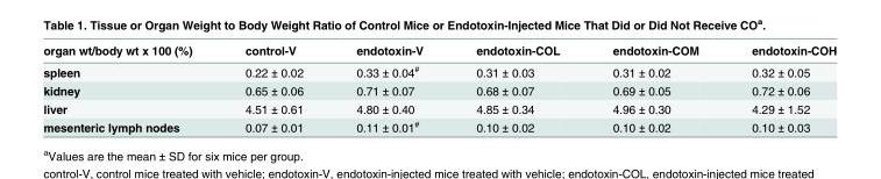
<table><thead><tr><td>organ wt/body wt x 100 (%)</td><td>control-V</td><td>endotoxin-V</td><td>endotoxin-COL</td><td>endotoxin-COM</td><td>endotoxin-COH</td></tr></thead><tbody><tr><td>spleen</td><td>0.22 ± 0.02</td><td>0.33 ± 0.04<sup>#</sup></td><td>0.31 ± 0.03</td><td>0.31 ± 0.02</td><td>0.32 ± 0.05</td></tr><tr><td>kidney</td><td>0.65 ± 0.06</td><td>0.71 ± 0.07</td><td>0.68 ± 0.07</td><td>0.69 ± 0.05</td><td>0.72 ± 0.06</td></tr><tr><td>liver</td><td>4.51 ± 0.61</td><td>4.80 ± 0.40</td><td>4.85 ± 0.34</td><td>4.96 ± 0.30</td><td>4.29 ± 1.52</td></tr><tr><td>mesenteric lymph nodes</td><td>0.07 ± 0.01</td><td>0.11 ± 0.01<sup>#</sup></td><td>0.10 ± 0.02</td><td>0.10 ± 0.02</td><td>0.10 ± 0.03</td></tr></tbody></table>